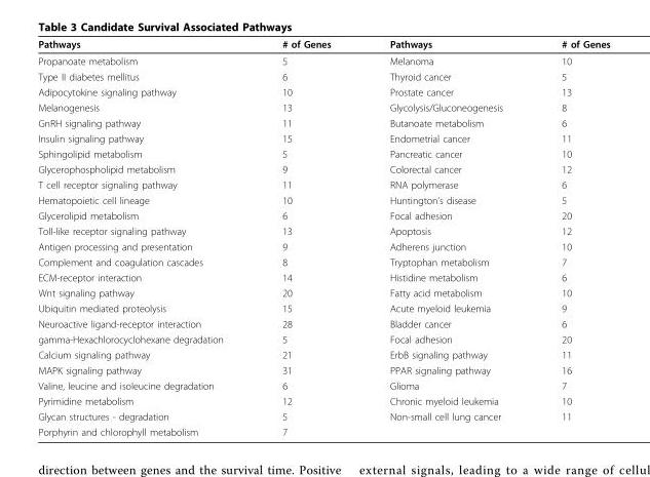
<table><thead><tr><td>Pathways</td><td># of Genes</td><td>Pathways</td><td># of Genes</td></tr></thead><tbody><tr><td>Propanoate metabolism</td><td>5</td><td>Melanoma</td><td>10</td></tr><tr><td>Type II diabetes mellitus</td><td>6</td><td>Thyroid cancer</td><td>5</td></tr><tr><td>Adipocytokine signaling pathway</td><td>10</td><td>Prostate cancer</td><td>13</td></tr><tr><td>Melanogenesis</td><td>13</td><td>Glycolysis/Gluconeogenesis</td><td>8</td></tr><tr><td>GnRH signaling pathway</td><td>11</td><td>Butanoate metabolism</td><td>6</td></tr><tr><td>Insulin signaling pathway</td><td>15</td><td>Endometrial cancer</td><td>11</td></tr><tr><td>Sphingolipid metabolism</td><td>5</td><td>Pancreatic cancer</td><td>10</td></tr><tr><td>Glycerophospholipid metabolism</td><td>9</td><td>Colorectal cancer</td><td>12</td></tr><tr><td>T cell receptor signaling pathway</td><td>11</td><td>RNA polymerase</td><td>6</td></tr><tr><td>Hematopoietic cell lineage</td><td>10</td><td>Huntington’s disease</td><td>5</td></tr><tr><td>Glycerolipid metabolism</td><td>6</td><td>Focal adhesion</td><td>20</td></tr><tr><td>Toll-like receptor signaling pathway</td><td>13</td><td>Apoptosis</td><td>12</td></tr><tr><td>Antigen processing and presentation</td><td>9</td><td>Adherens junction</td><td>10</td></tr><tr><td>Complement and coagulation cascades</td><td>8</td><td>Tryptophan metabolism</td><td>7</td></tr><tr><td>ECM-receptor interaction</td><td>14</td><td>Histidine metabolism</td><td>6</td></tr><tr><td>Wnt signaling pathway</td><td>20</td><td>Fatty acid metabolism</td><td>10</td></tr><tr><td>Ubiquitin mediated proteolysis</td><td>15</td><td>Acute myeloid leukemia</td><td>9</td></tr><tr><td>Neuroactive ligand-receptor interaction</td><td>28</td><td>Bladder cancer</td><td>6</td></tr><tr><td>gamma-Hexachlorocyclohexane degradation</td><td>5</td><td>Focal adhesion</td><td>20</td></tr><tr><td>Calcium signaling pathway</td><td>21</td><td>ErbB signaling pathway</td><td>11</td></tr><tr><td>MAPK signaling pathway</td><td>31</td><td>PPAR signaling pathway</td><td>16</td></tr><tr><td>Valine, leucine and isoleucine degradation</td><td>6</td><td>Glioma</td><td>7</td></tr><tr><td>Pyrimidine metabolism</td><td>12</td><td>Chronic myeloid leukemia</td><td>10</td></tr><tr><td>Glycan structures - degradation</td><td>5</td><td>Non-small cell lung cancer</td><td>11</td></tr><tr><td>Porphyrin and chlorophyll metabolism</td><td>7</td><td></td><td></td></tr></tbody></table>